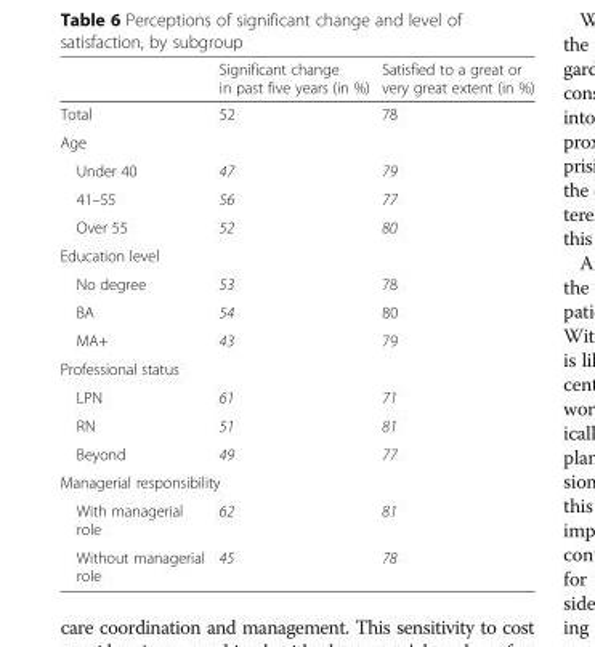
<table><thead><tr><td></td><td>Significant change in past five years (in %)</td><td>Satisfied to a great or very great extent (in %)</td></tr></thead><tbody><tr><td>Total</td><td>52</td><td>78</td></tr><tr><td colspan="3">Age</td></tr><tr><td>Under 40</td><td>47</td><td>79</td></tr><tr><td>41–55</td><td>56</td><td>77</td></tr><tr><td>Over 55</td><td>52</td><td>80</td></tr><tr><td colspan="3">Education level</td></tr><tr><td>No degree</td><td>53</td><td>78</td></tr><tr><td>BA</td><td>54</td><td>80</td></tr><tr><td>MA+</td><td>43</td><td>79</td></tr><tr><td colspan="3">Professional status</td></tr><tr><td>LPN</td><td>61</td><td>71</td></tr><tr><td>RN</td><td>51</td><td>81</td></tr><tr><td>Beyond</td><td>49</td><td>77</td></tr><tr><td colspan="3">Managerial responsibility</td></tr><tr><td>With managerial role</td><td>62</td><td>81</td></tr><tr><td>Without managerial role</td><td>45</td><td>78</td></tr></tbody></table>